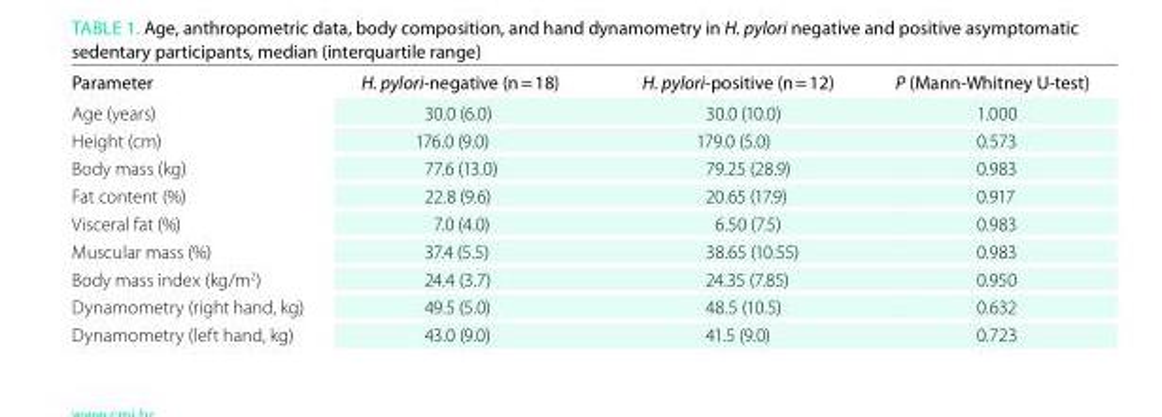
<table><thead><tr><td>Parameter</td><td>H. pylori-negative (n = 18)</td><td>H. pylori-positive (n = 12)</td><td>P (Mann-Whitney u-test)</td></tr></thead><tbody><tr><td>Age (years)</td><td>30.0 (6.0)</td><td>30.0 (10.0)</td><td>1.000</td></tr><tr><td>Height (cm)</td><td>176.0 (9.0)</td><td>179.0 (5.0)</td><td>0.573</td></tr><tr><td>Body mass (kg)</td><td>77.6 (13.0)</td><td>79.25 (28.9)</td><td>0.983</td></tr><tr><td>Fat content (%)</td><td>22.8 (9.6)</td><td>20.65 (17.9)</td><td>0.917</td></tr><tr><td>Visceral fat (%)</td><td>7.0 (4.0)</td><td>6.50 (7.5)</td><td>0.983</td></tr><tr><td>Muscular mass (%)</td><td>37.4 (5.5)</td><td>38.65 (10.55)</td><td>0.983</td></tr><tr><td>Body mass index (kg/m<sup>2</sup>)</td><td>24.4 (3.7)</td><td>24.35 (7.85)</td><td>0.950</td></tr><tr><td>Dynamometry (right hand, kg)</td><td>49.5 (5.0)</td><td>48.5 (10.5)</td><td>0.632</td></tr><tr><td>Dynamometry (left hand, kg)</td><td>43.0 (9.0)</td><td>41.5 (9.0)</td><td>0.723</td></tr></tbody></table>